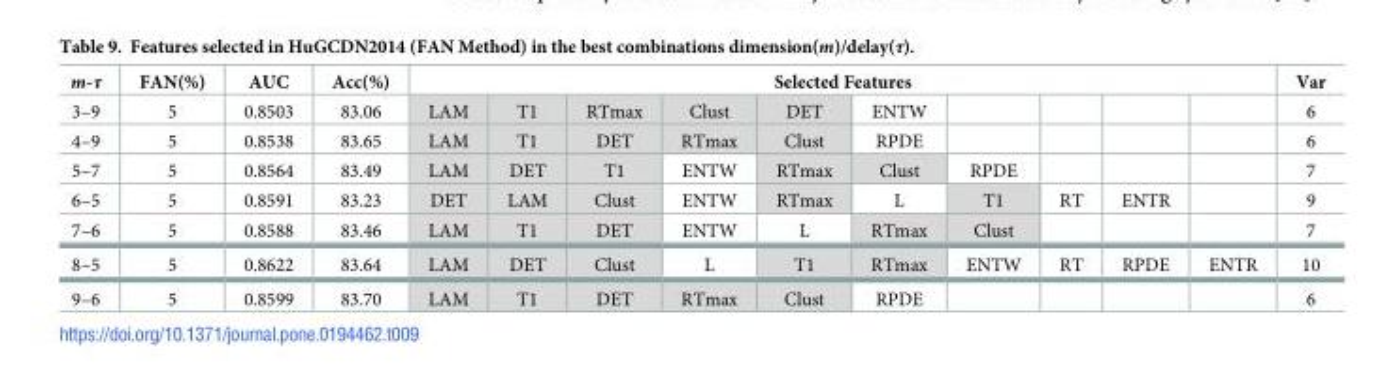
<table><thead><tr><td rowspan="2">m-τ 3–9</td><td rowspan="2">FAN(%) 5</td><td rowspan="2">AUC 0.8503</td><td rowspan="2">Acc(%) 83.06</td><td colspan="10">Selected Features</td><td rowspan="2">Var 6</td></tr><tr><td>LAM</td><td>T1</td><td>RTmax</td><td>Clust</td><td>DET</td><td>ENTW</td><td></td><td></td><td></td><td></td></tr></thead><tbody><tr><td>4–9</td><td>5</td><td>0.8538</td><td>83.65</td><td>LAM</td><td>T1</td><td>DET</td><td>RTmax</td><td>Clust</td><td>RPDE</td><td></td><td></td><td></td><td></td><td>6</td></tr><tr><td>5–7</td><td>5</td><td>0.8564</td><td>83.49</td><td>LAM</td><td>DET</td><td>T1</td><td>ENTW</td><td>RTmax</td><td>Clust</td><td>RPDE</td><td></td><td></td><td></td><td>7</td></tr><tr><td>6–5</td><td>5</td><td>0.8591</td><td>83.23</td><td>DET</td><td>LAM</td><td>Clust</td><td>ENTW</td><td>RTmax</td><td>L</td><td>T1</td><td>RT</td><td>ENTR</td><td></td><td>9</td></tr><tr><td>7–6</td><td>5</td><td>0.8588</td><td>83.46</td><td>LAM</td><td>T1</td><td>DET</td><td>ENTW</td><td>L</td><td>RTmax</td><td>Clust</td><td></td><td></td><td></td><td>7</td></tr><tr><td>8–5</td><td>5</td><td>0.8622</td><td>83.64</td><td>LAM</td><td>DET</td><td>Clust</td><td>L</td><td>T1</td><td>RTmax</td><td>ENTW</td><td>RT</td><td>RPDE</td><td>ENTR</td><td>10</td></tr><tr><td>9–6</td><td>5</td><td>0.8599</td><td>83.70</td><td>LAM</td><td>T1</td><td>DET</td><td>RTmax</td><td>Clust</td><td>RPDE</td><td></td><td></td><td></td><td></td><td>6</td></tr></tbody></table>